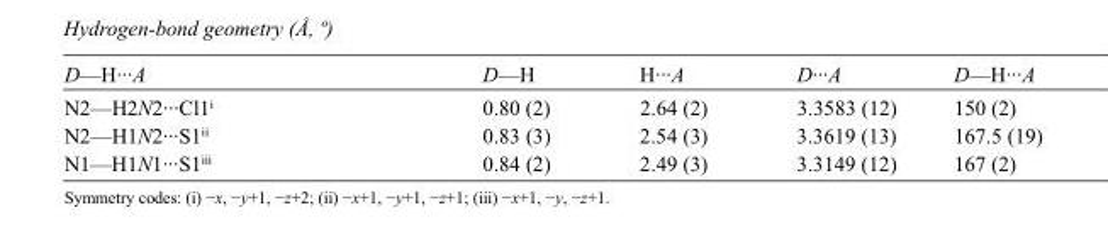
<table><tbody><tr><td>D—H···A</td><td>D—H</td><td>H···A</td><td>D···A</td><td>D—H···A</td></tr><tr><td>N2—H2N2···Cl1<sup>i</sup></td><td>0.80 (2)</td><td>2.64 (2)</td><td>3.3583 (12)</td><td>150 (2)</td></tr><tr><td>N2—H1N2···S1<sup>ii</sup></td><td>0.83 (3)</td><td>2.54 (3)</td><td>3.3619 (13)</td><td>167.5 (19)</td></tr><tr><td>N1—H1N1···S1<sup>iii</sup></td><td>0.84 (2)</td><td>2.49 (3)</td><td>3.3149 (12)</td><td>167 (2)</td></tr></tbody></table>